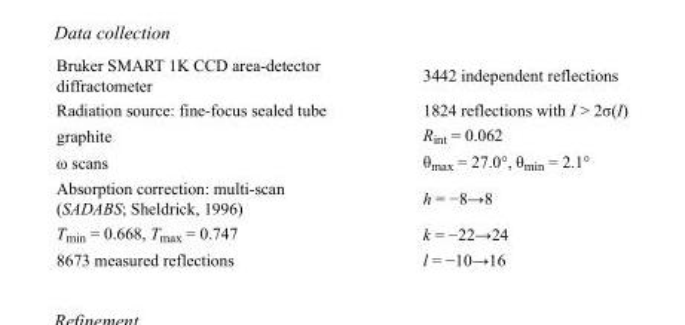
<table><tbody><tr><td>Bruker SMART 1K CCD area-detector diffractometer</td><td>3442 independent reflections</td></tr><tr><td>Radiation source: fine-focus sealed tube</td><td>1824 reflections with I &gt; 2σ(I)</td></tr><tr><td>graphite</td><td>R<sub>int</sub> = 0.062</td></tr><tr><td>ω scans</td><td>θ<sub>max</sub> = 27.0°, θ<sub>min</sub> = 2.1°</td></tr><tr><td>Absorption correction: multi-scan (SADABS; Sheldrick, 1996)</td><td>h = −8→8</td></tr><tr><td>T<sub>min</sub> = 0.668, T<sub>max</sub> = 0.747</td><td>k = −22→24</td></tr><tr><td>8673 measured reflections</td><td>l = −10→16</td></tr></tbody></table>